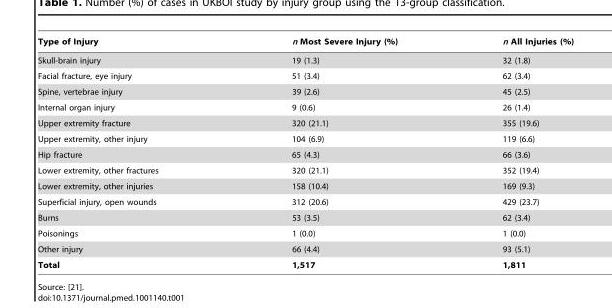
<table><thead><tr><td>Type of Injury</td><td>n Most Severe Injury (%)</td><td>n All Injuries (%)</td></tr></thead><tbody><tr><td>Skull-brain injury</td><td>19 (1.3)</td><td>32 (1.8)</td></tr><tr><td>Facial fracture, eye injury</td><td>51 (3.4)</td><td>62 (3.4)</td></tr><tr><td>Spine, vertebrae injury</td><td>39 (2.6)</td><td>45 (2.5)</td></tr><tr><td>Internal organ injury</td><td>9 (0.6)</td><td>26 (1.4)</td></tr><tr><td>Upper extremity fracture</td><td>320 (21.1)</td><td>355 (19.6)</td></tr><tr><td>Upper extremity, other injury</td><td>104 (6.9)</td><td>119 (6.6)</td></tr><tr><td>Hip fracture</td><td>65 (4.3)</td><td>66 (3.6)</td></tr><tr><td>Lower extremity, other fractures</td><td>320 (21.1)</td><td>352 (19.4)</td></tr><tr><td>Lower extremity, other injuries</td><td>158 (10.4)</td><td>169 (9.3)</td></tr><tr><td>Superficial injury, open wounds</td><td>312 (20.6)</td><td>429 (23.7)</td></tr><tr><td>Burns</td><td>53 (3.5)</td><td>62 (3.4)</td></tr><tr><td>Poisonings</td><td>1 (0.0)</td><td>1 (0.0)</td></tr><tr><td>Other injury</td><td>66 (4.4)</td><td>93 (5.1)</td></tr><tr><td>Total</td><td>1,517</td><td>1,811</td></tr></tbody></table>